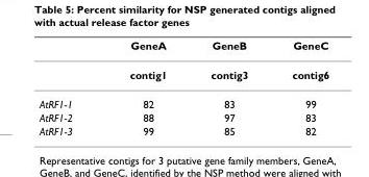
<table><thead><tr><td></td><td>GeneA</td><td>GeneB</td><td>GeneC</td></tr></thead><tbody><tr><td></td><td>contig1</td><td>contig3</td><td>contig6</td></tr><tr><td>AtRF1-1</td><td>82</td><td>83</td><td>99</td></tr><tr><td>AtRF1-2</td><td>88</td><td>97</td><td>83</td></tr><tr><td>AtRF1-3</td><td>99</td><td>85</td><td>82</td></tr></tbody></table>